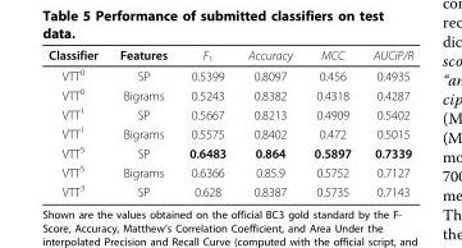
<table><thead><tr><td>Classifier</td><td>Features</td><td>F<sub>1</sub></td><td>Accuracy</td><td>MCC</td><td>AUCiP/R</td></tr></thead><tbody><tr><td>VTT<sup>0</sup></td><td>SP</td><td>0.5399</td><td>0.8097</td><td>0.456</td><td>0.4935</td></tr><tr><td>VTT<sup>0</sup></td><td>Bigrams</td><td>0.5243</td><td>0.8382</td><td>0.4318</td><td>0.4287</td></tr><tr><td>VTT<sup>1</sup></td><td>SP</td><td>0.5667</td><td>0.8213</td><td>0.4909</td><td>0.5402</td></tr><tr><td>VTT<sup>1</sup></td><td>Bigrams</td><td>0.5575</td><td>0.8402</td><td>0.472</td><td>0.5015</td></tr><tr><td>VTT<sup>5</sup></td><td>SP</td><td>0.6483</td><td>0.864</td><td>0.5897</td><td>0.7339</td></tr><tr><td>VTT<sup>5</sup></td><td>Bigrams</td><td>0.6366</td><td>0.85.9</td><td>0.5752</td><td>0.7127</td></tr><tr><td>VTT<sup>3</sup></td><td>SP</td><td>0.628</td><td>0.8387</td><td>0.5735</td><td>0.7143</td></tr></tbody></table>